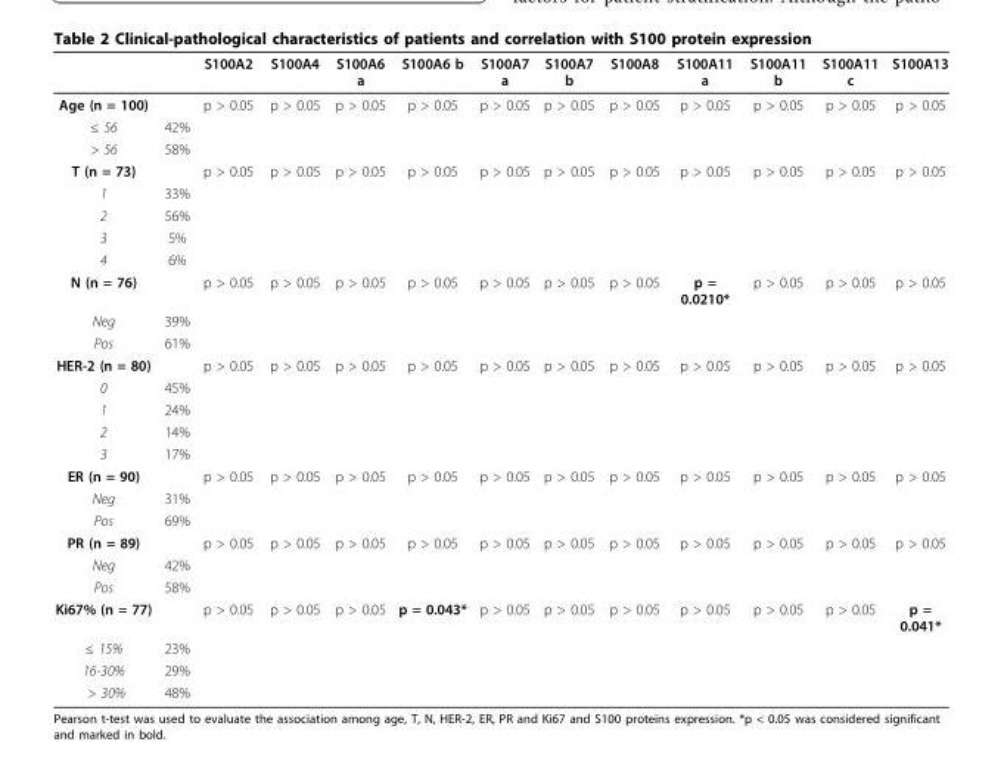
<table><thead><tr><td></td><td></td><td>S100A2</td><td>S100A4</td><td>S100A6 a</td><td>S100A6 b</td><td>S100A7 a</td><td>S100A7 b</td><td>S100A8</td><td>S100A11 a</td><td>S100A11 b</td><td>S100A11 c</td><td>S100A13</td></tr></thead><tbody><tr><td>Age (n = 100)</td><td></td><td>p &gt; 0.05</td><td>p &gt; 0.05</td><td>p &gt; 0.05</td><td>p &gt; 0.05</td><td>p &gt; 0.05</td><td>p &gt; 0.05</td><td>p &gt; 0.05</td><td>p &gt; 0.05</td><td>p &gt; 0.05</td><td>p &gt; 0.05</td><td>p &gt; 0.05</td></tr><tr><td>≤ 56</td><td>42%</td><td></td><td></td><td></td><td></td><td></td><td></td><td></td><td></td><td></td><td></td><td></td></tr><tr><td>&gt; 56</td><td>58%</td><td></td><td></td><td></td><td></td><td></td><td></td><td></td><td></td><td></td><td></td><td></td></tr><tr><td>T (n = 73)</td><td></td><td>p &gt; 0.05</td><td>p &gt; 0.05</td><td>p &gt; 0.05</td><td>p &gt; 0.05</td><td>p &gt; 0.05</td><td>p &gt; 0.05</td><td>p &gt; 0.05</td><td>p &gt; 0.05</td><td>p &gt; 0.05</td><td>p &gt; 0.05</td><td>p &gt; 0.05</td></tr><tr><td>1</td><td>33%</td><td></td><td></td><td></td><td></td><td></td><td></td><td></td><td></td><td></td><td></td><td></td></tr><tr><td>2</td><td>56%</td><td></td><td></td><td></td><td></td><td></td><td></td><td></td><td></td><td></td><td></td><td></td></tr><tr><td>3</td><td>5%</td><td></td><td></td><td></td><td></td><td></td><td></td><td></td><td></td><td></td><td></td><td></td></tr><tr><td>4</td><td>6%</td><td></td><td></td><td></td><td></td><td></td><td></td><td></td><td></td><td></td><td></td><td></td></tr><tr><td>N (n = 76)</td><td></td><td>p &gt; 0.05</td><td>p &gt; 0.05</td><td>p &gt; 0.05</td><td>p &gt; 0.05</td><td>p &gt; 0.05</td><td>p &gt; 0.05</td><td>p &gt; 0.05</td><td>p = 0.0210*</td><td>p &gt; 0.05</td><td>p &gt; 0.05</td><td>p &gt; 0.05</td></tr><tr><td>Neg</td><td>39%</td><td></td><td></td><td></td><td></td><td></td><td></td><td></td><td></td><td></td><td></td><td></td></tr><tr><td>Pos</td><td>61%</td><td></td><td></td><td></td><td></td><td></td><td></td><td></td><td></td><td></td><td></td><td></td></tr><tr><td>HER-2 (n = 80)</td><td></td><td>p &gt; 0.05</td><td>p &gt; 0.05</td><td>p &gt; 0.05</td><td>p &gt; 0.05</td><td>p &gt; 0.05</td><td>p &gt; 0.05</td><td>p &gt; 0.05</td><td>p &gt; 0.05</td><td>p &gt; 0.05</td><td>p &gt; 0.05</td><td>p &gt; 0.05</td></tr><tr><td>0</td><td>45%</td><td></td><td></td><td></td><td></td><td></td><td></td><td></td><td></td><td></td><td></td><td></td></tr><tr><td>1</td><td>24%</td><td></td><td></td><td></td><td></td><td></td><td></td><td></td><td></td><td></td><td></td><td></td></tr><tr><td>2</td><td>14%</td><td></td><td></td><td></td><td></td><td></td><td></td><td></td><td></td><td></td><td></td><td></td></tr><tr><td>3</td><td>17%</td><td></td><td></td><td></td><td></td><td></td><td></td><td></td><td></td><td></td><td></td><td></td></tr><tr><td>ER (n = 90)</td><td></td><td>p &gt; 0.05</td><td>p &gt; 0.05</td><td>p &gt; 0.05</td><td>p &gt; 0.05</td><td>p &gt; 0.05</td><td>p &gt; 0.05</td><td>p &gt; 0.05</td><td>p &gt; 0.05</td><td>p &gt; 0.05</td><td>p &gt; 0.05</td><td>p &gt; 0.05</td></tr><tr><td>Neg</td><td>31%</td><td></td><td></td><td></td><td></td><td></td><td></td><td></td><td></td><td></td><td></td><td></td></tr><tr><td>Pos</td><td>69%</td><td></td><td></td><td></td><td></td><td></td><td></td><td></td><td></td><td></td><td></td><td></td></tr><tr><td>PR (n = 89)</td><td></td><td>p &gt; 0.05</td><td>p &gt; 0.05</td><td>p &gt; 0.05</td><td>p &gt; 0.05</td><td>p &gt; 0.05</td><td>p &gt; 0.05</td><td>p &gt; 0.05</td><td>p &gt; 0.05</td><td>p &gt; 0.05</td><td>p &gt; 0.05</td><td>p &gt; 0.05</td></tr><tr><td>Neg</td><td>42%</td><td></td><td></td><td></td><td></td><td></td><td></td><td></td><td></td><td></td><td></td><td></td></tr><tr><td>Pos</td><td>58%</td><td></td><td></td><td></td><td></td><td></td><td></td><td></td><td></td><td></td><td></td><td></td></tr><tr><td>Ki67% (n = 77)</td><td></td><td>p &gt; 0.05</td><td>p &gt; 0.05</td><td>p &gt; 0.05</td><td>p = 0.043*</td><td>p &gt; 0.05</td><td>p &gt; 0.05</td><td>p &gt; 0.05</td><td>p &gt; 0.05</td><td>p &gt; 0.05</td><td>p &gt; 0.05</td><td>p = 0.041*</td></tr><tr><td>≤ 15%</td><td>23%</td><td></td><td></td><td></td><td></td><td></td><td></td><td></td><td></td><td></td><td></td><td></td></tr><tr><td>16-30%</td><td>29%</td><td></td><td></td><td></td><td></td><td></td><td></td><td></td><td></td><td></td><td></td><td></td></tr><tr><td>&gt; 30%</td><td>48%</td><td></td><td></td><td></td><td></td><td></td><td></td><td></td><td></td><td></td><td></td><td></td></tr></tbody></table>